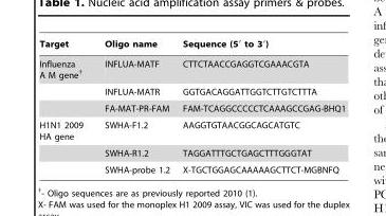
<table><thead><tr><td>Target</td><td>Oligo name</td><td>Sequence (5′ to 3′)</td></tr></thead><tbody><tr><td rowspan="3">Influenza A M gene†</td><td>INFLUA-MATF</td><td>CTTCTAACCGAGGTCGAAACGTA</td></tr><tr><td>INFLUA-MATR</td><td>GGTGACAGGATTGGTCTTGTCTTTA</td></tr><tr><td>FA-MAT-PR-FAM</td><td>FAM-TCAGGCCCCCTCAAAGCCGAG-BHQ1</td></tr><tr><td rowspan="3">H1N1 2009 HA gene</td><td>SWHA-F1.2</td><td>AAGGTGTAACGGCAGCATGTC</td></tr><tr><td>SWHA-R1.2</td><td>TAGGATTTGCTGAGCTTTGGGTAT</td></tr><tr><td>SWHA-probe 1.2</td><td>X-TGCTGGAGCAAAAAGCTTCT-MGBNFQ</td></tr></tbody></table>